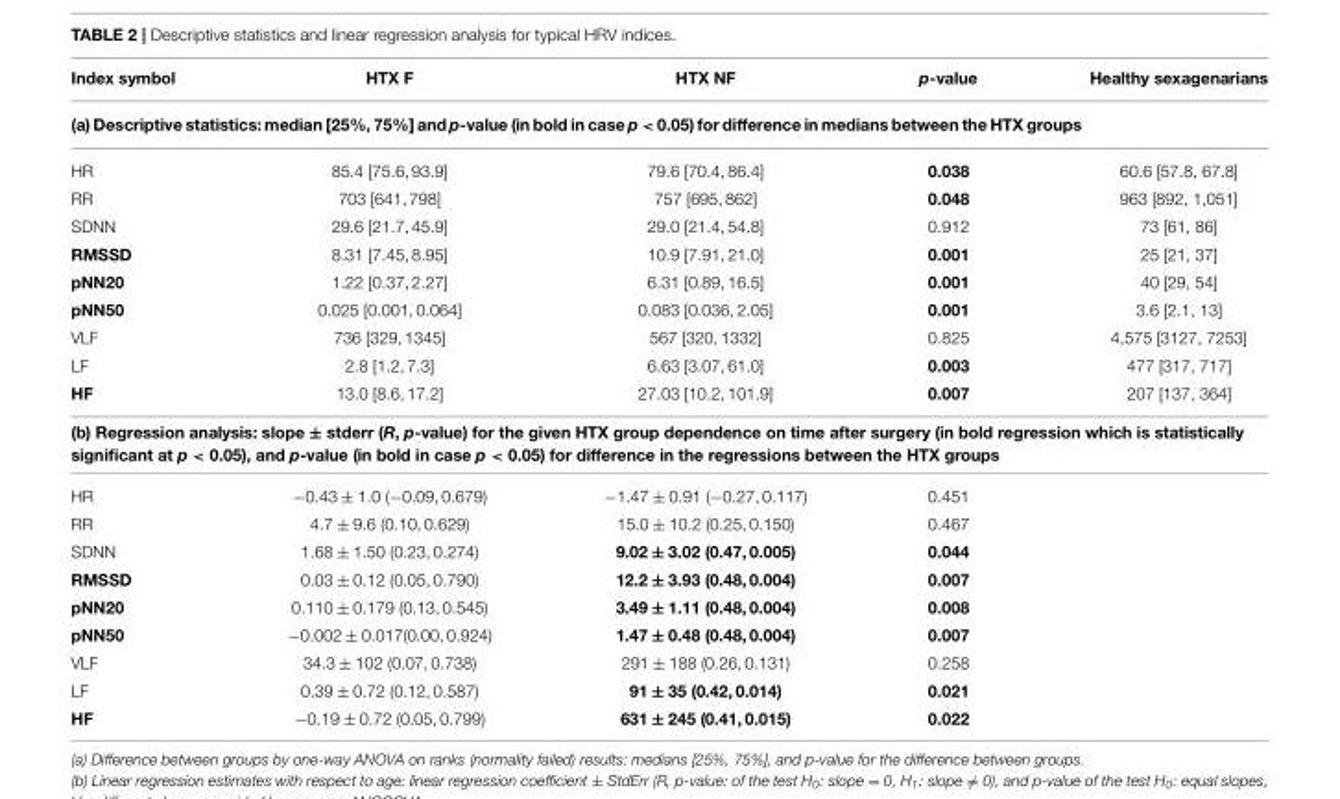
<table><thead><tr><td>Index symbol</td><td>HTX F</td><td>HTX NF</td><td>p-value</td><td>Healthy sexagenarians</td></tr></thead><tbody><tr><td colspan="5">(a) Descriptive statistics: median [25%, 75%] and p-value (in bold in case p &lt; 0.05) for difference in medians between the HTX groups</td></tr><tr><td>HR</td><td>85.4 [75.6, 93.9]</td><td>79.6 [70.4, 86.4]</td><td>0.038</td><td>60.6 [57.8, 67.8]</td></tr><tr><td>RR</td><td>703 [641, 798]</td><td>757 [695, 862]</td><td>0.048</td><td>963 [892, 1,051]</td></tr><tr><td>SDNN</td><td>29.6 [21.7, 45.9]</td><td>29.0 [21.4, 54.8]</td><td>0.912</td><td>73 [61, 86]</td></tr><tr><td>RMSSD</td><td>8.31 [7.45, 8.95]</td><td>10.9 [7.91, 21.0]</td><td>0.001</td><td>25 [21, 37]</td></tr><tr><td>pNN20</td><td>1.22 [0.37, 2.27]</td><td>6.31 [0.89, 16.5]</td><td>0.001</td><td>40 [29, 54]</td></tr><tr><td>pNN50</td><td>0.025 [0.001, 0.064]</td><td>0.083 [0.036, 2.05]</td><td>0.001</td><td>3.6 [2.1, 13]</td></tr><tr><td>VLF</td><td>736 [329, 1345]</td><td>567 [320, 1332]</td><td>0.825</td><td>4,575 [3127, 7253]</td></tr><tr><td>LF</td><td>2.8 [1.2, 7.3]</td><td>6.63 [3.07, 61.0]</td><td>0.003</td><td>477 [317, 717]</td></tr><tr><td>HF</td><td>13.0 [8.6, 17.2]</td><td>27.03 [10.2, 101.9]</td><td>0.007</td><td>207 [137, 364]</td></tr><tr><td colspan="5">(b) Regression analysis: slope ± stderr (R, p-value) for the given HTX group dependence on time after surgery (in bold regression which is statistically significant at p &lt; 0.05), and p-value (in bold in case p &lt; 0.05) for difference in the regressions between the HTX groups</td></tr><tr><td>HR</td><td>−0.43 ± 1.0 (−0.09, 0.679)</td><td>−1.47 ± 0.91 (−0.27, 0.117)</td><td>0.451</td><td></td></tr><tr><td>RR</td><td>4.7 ± 9.6 (0.10, 0.629)</td><td>15.0 ± 10.2 (0.25, 0.150)</td><td>0.467</td><td></td></tr><tr><td>SDNN</td><td>1.68 ± 1.50 (0.23, 0.274)</td><td>9.02 ± 3.02 (0.47, 0.005)</td><td>0.044</td><td></td></tr><tr><td>RMSSD</td><td>0.03 ± 0.12 (0.05, 0.790)</td><td>12.2 ± 3.93 (0.48, 0.004)</td><td>0.007</td><td></td></tr><tr><td>pNN20</td><td>0.110 ± 0.179 (0.13, 0.545)</td><td>3.49 ± 1.11 (0.48, 0.004)</td><td>0.008</td><td></td></tr><tr><td>pNN50</td><td>−0.002 ± 0.017(0.00, 0.924)</td><td>1.47 ± 0.48 (0.48, 0.004)</td><td>0.007</td><td></td></tr><tr><td>VLF</td><td>34.3 ± 102 (0.07, 0.738)</td><td>291 ± 188 (0.26, 0.131)</td><td>0.258</td><td></td></tr><tr><td>LF</td><td>0.39 ± 0.72 (0.12, 0.587)</td><td>91 ± 35 (0.42, 0.014)</td><td>0.021</td><td></td></tr><tr><td>HF</td><td>−0.19 ± 0.72 (0.05, 0.799)</td><td>631 ± 245 (0.41, 0.015)</td><td>0.022</td><td></td></tr></tbody></table>